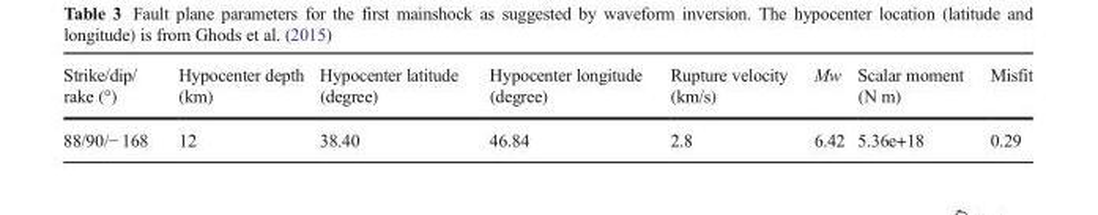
<table><thead><tr><td>Strike/dip/ rake (°)</td><td>Hypocenter depth (km)</td><td>Hypocenter latitude (degree)</td><td>Hypocenter longitude (degree)</td><td>Rupture velocity (km/s)</td><td>Mw</td><td>Scalar moment (N m)</td><td>Misfit</td></tr></thead><tbody><tr><td>88/90/− 168</td><td>12</td><td>38.40</td><td>46.84</td><td>2.8</td><td>6.42</td><td>5.36e+18</td><td>0.29</td></tr></tbody></table>